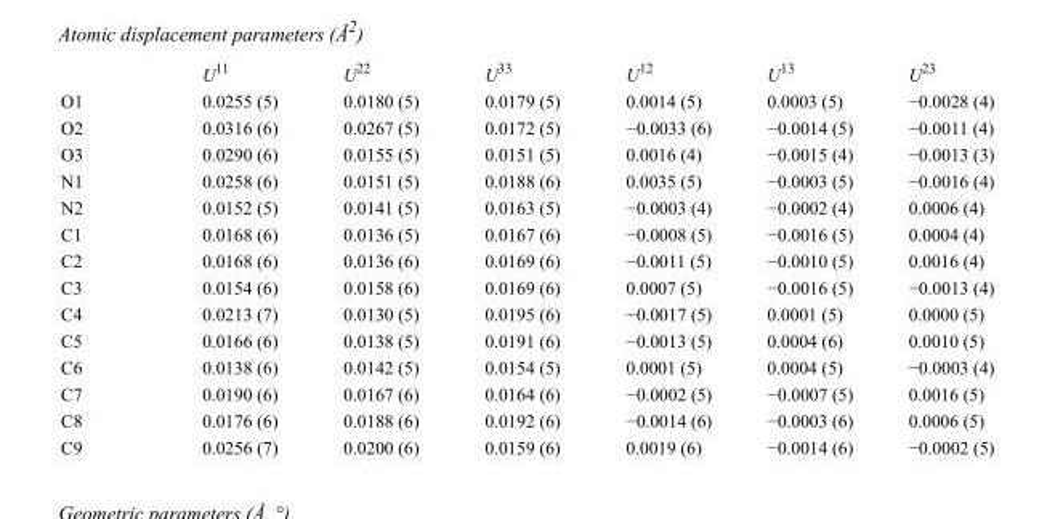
<table><thead><tr><td></td><td>U<sup>11</sup></td><td>U<sup>22</sup></td><td>U<sup>33</sup></td><td>U<sup>12</sup></td><td>U<sup>13</sup></td><td>U<sup>23</sup></td></tr></thead><tbody><tr><td>O1</td><td>0.0255 (5)</td><td>0.0180 (5)</td><td>0.0179 (5)</td><td>0.0014 (5)</td><td>0.0003 (5)</td><td>−0.0028 (4)</td></tr><tr><td>O2</td><td>0.0316 (6)</td><td>0.0267 (5)</td><td>0.0172 (5)</td><td>−0.0033 (6)</td><td>−0.0014 (5)</td><td>−0.0011 (4)</td></tr><tr><td>O3</td><td>0.0290 (6)</td><td>0.0155 (5)</td><td>0.0151 (5)</td><td>0.0016 (4)</td><td>−0.0015 (4)</td><td>−0.0013 (3)</td></tr><tr><td>N1</td><td>0.0258 (6)</td><td>0.0151 (5)</td><td>0.0188 (6)</td><td>0.0035 (5)</td><td>−0.0003 (5)</td><td>−0.0016 (4)</td></tr><tr><td>N2</td><td>0.0152 (5)</td><td>0.0141 (5)</td><td>0.0163 (5)</td><td>−0.0003 (4)</td><td>−0.0002 (4)</td><td>0.0006 (4)</td></tr><tr><td>C1</td><td>0.0168 (6)</td><td>0.0136 (5)</td><td>0.0167 (6)</td><td>−0.0008 (5)</td><td>−0.0016 (5)</td><td>0.0004 (4)</td></tr><tr><td>C2</td><td>0.0168 (6)</td><td>0.0136 (6)</td><td>0.0169 (6)</td><td>−0.0011 (5)</td><td>−0.0010 (5)</td><td>0.0016 (4)</td></tr><tr><td>C3</td><td>0.0154 (6)</td><td>0.0158 (6)</td><td>0.0169 (6)</td><td>0.0007 (5)</td><td>−0.0016 (5)</td><td>−0.0013 (4)</td></tr><tr><td>C4</td><td>0.0213 (7)</td><td>0.0130 (5)</td><td>0.0195 (6)</td><td>−0.0017 (5)</td><td>0.0001 (5)</td><td>0.0000 (5)</td></tr><tr><td>C5</td><td>0.0166 (6)</td><td>0.0138 (5)</td><td>0.0191 (6)</td><td>−0.0013 (5)</td><td>0.0004 (6)</td><td>0.0010 (5)</td></tr><tr><td>C6</td><td>0.0138 (6)</td><td>0.0142 (5)</td><td>0.0154 (5)</td><td>0.0001 (5)</td><td>0.0004 (5)</td><td>−0.0003 (4)</td></tr><tr><td>C7</td><td>0.0190 (6)</td><td>0.0167 (6)</td><td>0.0164 (6)</td><td>−0.0002 (5)</td><td>−0.0007 (5)</td><td>0.0016 (5)</td></tr><tr><td>C8</td><td>0.0176 (6)</td><td>0.0188 (6)</td><td>0.0192 (6)</td><td>−0.0014 (6)</td><td>−0.0003 (6)</td><td>0.0006 (5)</td></tr><tr><td>C9</td><td>0.0256 (7)</td><td>0.0200 (6)</td><td>0.0159 (6)</td><td>0.0019 (6)</td><td>−0.0014 (6)</td><td>−0.0002 (5)</td></tr></tbody></table>